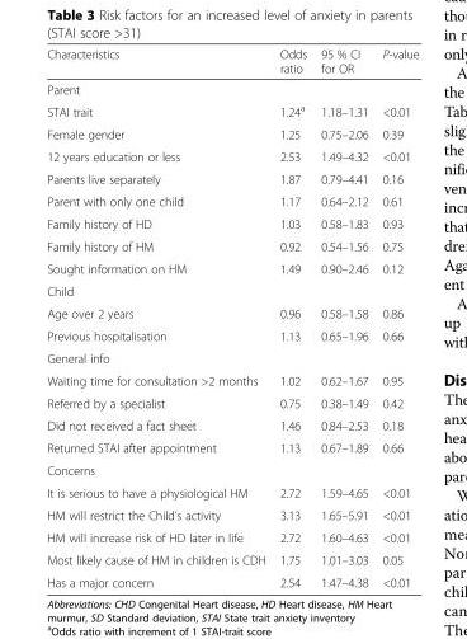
<table><thead><tr><td>Characteristics</td><td>Odds ratio</td><td>95 % CI for OR</td><td>P-value</td></tr></thead><tbody><tr><td colspan="4">Parent</td></tr><tr><td>STAI trait</td><td>1.24<sup>a</sup></td><td>1.18–1.31</td><td>&lt;0.01</td></tr><tr><td>Female gender</td><td>1.25</td><td>0.75–2.06</td><td>0.39</td></tr><tr><td>12 years education or less</td><td>2.53</td><td>1.49–4.32</td><td>&lt;0.01</td></tr><tr><td>Parents live separately</td><td>1.87</td><td>0.79–4.41</td><td>0.16</td></tr><tr><td>Parent with only one child</td><td>1.17</td><td>0.64–2.12</td><td>0.61</td></tr><tr><td>Family history of HD</td><td>1.03</td><td>0.58–1.83</td><td>0.93</td></tr><tr><td>Family history of HM</td><td>0.92</td><td>0.54–1.56</td><td>0.75</td></tr><tr><td>Sought information on HM</td><td>1.49</td><td>0.90–2.46</td><td>0.12</td></tr><tr><td colspan="4">Child</td></tr><tr><td>Age over 2 years</td><td>0.96</td><td>0.58–1.58</td><td>0.86</td></tr><tr><td>Previous hospitalisation</td><td>1.13</td><td>0.65–1.96</td><td>0.66</td></tr><tr><td colspan="4">General info</td></tr><tr><td>Waiting time for consultation &gt;2 months</td><td>1.02</td><td>0.62–1.67</td><td>0.95</td></tr><tr><td>Referred by a specialist</td><td>0.75</td><td>0.38–1.49</td><td>0.42</td></tr><tr><td>Did not received a fact sheet</td><td>1.46</td><td>0.84–2.53</td><td>0.18</td></tr><tr><td>Returned STAI after appointment</td><td>1.13</td><td>0.67–1.89</td><td>0.66</td></tr><tr><td colspan="4">Concerns</td></tr><tr><td>It is serious to have a physiological HM</td><td>2.72</td><td>1.59–4.65</td><td>&lt;0.01</td></tr><tr><td>HM will restrict the Child’s activity</td><td>3.13</td><td>1.65–5.91</td><td>&lt;0.01</td></tr><tr><td>HM will increase risk of HD later in life</td><td>2.72</td><td>1.60–4.63</td><td>&lt;0.01</td></tr><tr><td>Most likely cause of HM in children is CDH</td><td>1.75</td><td>1.01–3.03</td><td>0.05</td></tr><tr><td>Has a major concern</td><td>2.54</td><td>1.47–4.38</td><td>&lt;0.01</td></tr></tbody></table>